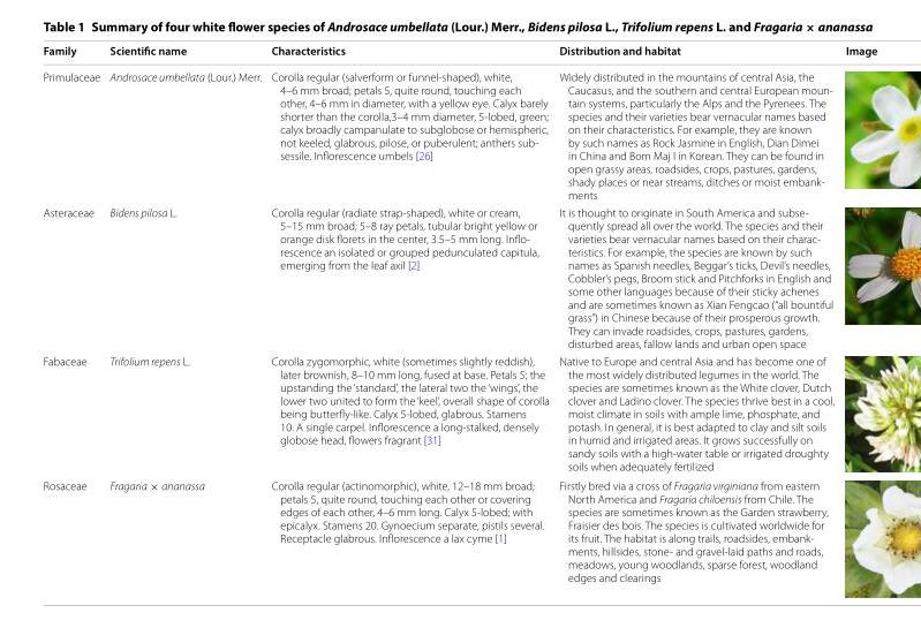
<table><thead><tr><td>Family</td><td>Scientific name</td><td>Characteristics</td><td>Distribution and habitat</td><td>Image</td></tr></thead><tbody><tr><td>Primulaceae</td><td>Androsace umbellata (Lour.) Merr.</td><td>Corolla regular (salverform or funnel-shaped), white, 4–6 mm broad; petals 5, quite round, touching each other, 4–6 mm in diameter, with a yellow eye. Calyx barely shorter than the corolla,3–4 mm diameter, 5-lobed, green; calyx broadly campanulate to subglobose or hemispheric, not keeled, glabrous, pilose, or puberulent; anthers sub- sessile. Inflorescence umbels [26]</td><td>Widely distributed in the mountains of central Asia, the Caucasus, and the southern and central European moun- tain systems, particularly the Alps and the Pyrenees. The species and their varieties bear vernacular names based on their characteristics. For example, they are known by such names as Rock Jasmine in English, Dian Dimei in China and Bom Maj I in Korean. They can be found in open grassy areas, roadsides, crops, pastures, gardens, shady places or near streams, ditches or moist embank- ments</td><td></td></tr><tr><td>Asteraceae</td><td>Bidens pilosa L.</td><td>Corolla regular (radiate strap-shaped), white or cream, 5–15 mm broad; 5–8 ray petals, tubular bright yellow or orange disk florets in the center, 3.5–5 mm long. Inflo- rescence an isolated or grouped pedunculated capitula, emerging from the leaf axil [2]</td><td>It is thought to originate in South America and subse- quently spread all over the world. The species and their varieties bear vernacular names based on their charac- teristics. For example, the species are known by such names as Spanish needles, Beggar’s ticks, Devil’s needles, Cobbler’s pegs, Broom stick and Pitchforks in English and some other languages because of their sticky achenes and are sometimes known as Xian Fengcao (“all bountiful grass”) in Chinese because of their prosperous growth. They can invade roadsides, crops, pastures, gardens, disturbed areas, fallow lands and urban open space</td><td></td></tr><tr><td>Fabaceae</td><td>Trifolium repens L.</td><td>Corolla zygomorphic, white (sometimes slightly reddish), later brownish, 8–10 mm long, fused at base. Petals 5; the upstanding the ‘standard’, the lateral two the ‘wings’, the lower two united to form the ‘keel’, overall shape of corolla being butterfly-like. Calyx 5-lobed, glabrous. Stamens 10. A single carpel. Inflorescence a long-stalked, densely globose head, flowers fragrant [31]</td><td>Native to Europe and central Asia and has become one of the most widely distributed legumes in the world. The species are sometimes known as the White clover, Dutch clover and Ladino clover. The species thrive best in a cool, moist climate in soils with ample lime, phosphate, and potash. In general, it is best adapted to clay and silt soils in humid and irrigated areas. It grows successfully on sandy soils with a high-water table or irrigated droughty soils when adequately fertilized</td><td></td></tr><tr><td>Rosaceae</td><td>Fragaria × ananassa</td><td>Corolla regular (actinomorphic), white, 12–18 mm broad; petals 5, quite round, touching each other or covering edges of each other, 4–6 mm long. Calyx 5-lobed; with epicalyx. Stamens 20. Gynoecium separate, pistils several. Receptacle glabrous. Inflorescence a lax cyme [1]</td><td>Firstly bred via a cross of Fragaria virginiana from eastern North America and Fragaria chiloensis from Chile. The species are sometimes known as the Garden strawberry, Fraisier des bois. The species is cultivated worldwide for its fruit. The habitat is along trails, roadsides, embank- ments, hillsides, stone- and gravel-laid paths and roads, meadows, young woodlands, sparse forest, woodland edges and clearings</td><td></td></tr></tbody></table>